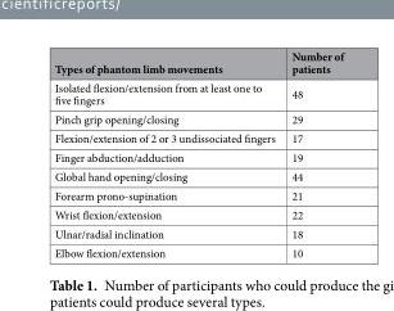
<table><thead><tr><td>Types of phantom limb movements</td><td>Number of patients</td></tr></thead><tbody><tr><td>Isolated flexion/extension from at least one to five fingers</td><td>48</td></tr><tr><td>Pinch grip opening/closing</td><td>29</td></tr><tr><td>Flexion/extension of 2 or 3 undissociated fingers</td><td>17</td></tr><tr><td>Finger abduction/adduction</td><td>19</td></tr><tr><td>Global hand opening/closing</td><td>44</td></tr><tr><td>Forearm prono-supination</td><td>21</td></tr><tr><td>Wrist flexion/extension</td><td>22</td></tr><tr><td>Ulnar/radial inclination</td><td>18</td></tr><tr><td>Elbow flexion/extension</td><td>10</td></tr></tbody></table>